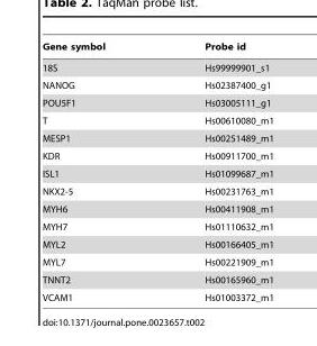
<table><thead><tr><td>Gene symbol</td><td>Probe id</td></tr></thead><tbody><tr><td>18S</td><td>Hs99999901_s1</td></tr><tr><td>NANOG</td><td>Hs02387400_g1</td></tr><tr><td>POU5F1</td><td>Hs03005111_g1</td></tr><tr><td>T</td><td>Hs00610080_m1</td></tr><tr><td>MESP1</td><td>Hs00251489_m1</td></tr><tr><td>KDR</td><td>Hs00911700_m1</td></tr><tr><td>ISL1</td><td>Hs01099687_m1</td></tr><tr><td>NKX2-5</td><td>Hs00231763_m1</td></tr><tr><td>MYH6</td><td>Hs00411908_m1</td></tr><tr><td>MYH7</td><td>Hs01110632_m1</td></tr><tr><td>MYL2</td><td>Hs00166405_m1</td></tr><tr><td>MYL7</td><td>Hs00221909_m1</td></tr><tr><td>TNNT2</td><td>Hs00165960_m1</td></tr><tr><td>VCAM1</td><td>Hs01003372_m1</td></tr></tbody></table>